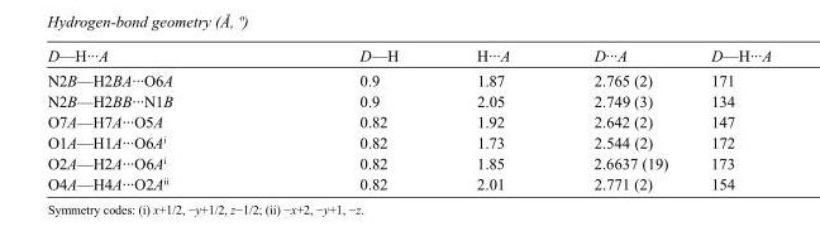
<table><tbody><tr><td>D—H···A</td><td>D—H</td><td>H···A</td><td>D···A</td><td>D—H···A</td></tr><tr><td>N2B—H2BA···O6A</td><td>0.9</td><td>1.87</td><td>2.765 (2)</td><td>171</td></tr><tr><td>N2B—H2BB···N1B</td><td>0.9</td><td>2.05</td><td>2.749 (3)</td><td>134</td></tr><tr><td>O7A—H7A···O5A</td><td>0.82</td><td>1.92</td><td>2.642 (2)</td><td>147</td></tr><tr><td>O1A—H1A···O6A<sup>i</sup></td><td>0.82</td><td>1.73</td><td>2.544 (2)</td><td>172</td></tr><tr><td>O2A—H2A···O6A<sup>i</sup></td><td>0.82</td><td>1.85</td><td>2.6637 (19)</td><td>173</td></tr><tr><td>O4A—H4A···O2A<sup>ii</sup></td><td>0.82</td><td>2.01</td><td>2.771 (2)</td><td>154</td></tr></tbody></table>